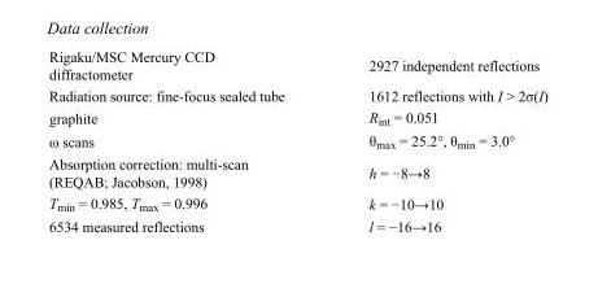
<table><tbody><tr><td>Rigaku/MSC Mercury CCD diffractometer</td><td>2927 independent reflections</td></tr><tr><td>Radiation source: fine-focus sealed tube</td><td>1612 reflections with I &gt; 2σ(I)</td></tr><tr><td>graphite</td><td>R<sub>int</sub> = 0.051</td></tr><tr><td>ω scans</td><td>θ<sub>max</sub> = 25.2°, θ<sub>min</sub> = 3.0°</td></tr><tr><td>Absorption correction: multi-scan (REQAB; Jacobson, 1998)</td><td>h = −8→8</td></tr><tr><td>T<sub>min</sub> = 0.985, T<sub>max</sub> = 0.996</td><td>k = −10→10</td></tr><tr><td>6534 measured reflections</td><td>l = −16→16</td></tr></tbody></table>